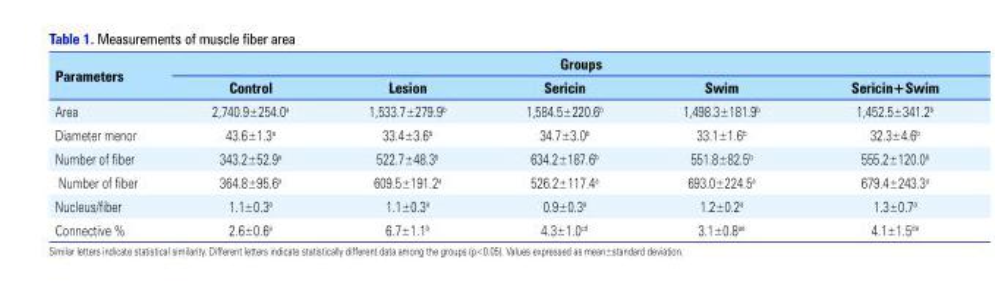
<table><thead><tr><td rowspan="2">Parameters</td><td colspan="5">Groups</td></tr><tr><td>Control</td><td>Lesion</td><td>Sericin</td><td>Swim</td><td>Sericin+Swim</td></tr></thead><tbody><tr><td>Area</td><td>2,740.9±254.0<sup>a</sup></td><td>1,533.7±279.9<sup>b</sup></td><td>1,584.5±220.6<sup>b</sup></td><td>1,498.3±181.9<sup>b</sup></td><td>1,452.5±341.2<sup>b</sup></td></tr><tr><td>Diameter menor</td><td>43.6±1.3<sup>a</sup></td><td>33.4±3.6<sup>b</sup></td><td>34.7±3.0<sup>b</sup></td><td>33.1±1.6<sup>b</sup></td><td>32.3±4.6<sup>b</sup></td></tr><tr><td>Number of fiber</td><td>343.2±52.9<sup>a</sup></td><td>522.7±48.3<sup>b</sup></td><td>634.2±187.6<sup>b</sup></td><td>551.8±82.5<sup>b</sup></td><td>555.2±120.0<sup>b</sup></td></tr><tr><td>Number of fiber</td><td>364.8±95.6<sup>a</sup></td><td>609.5±191.2<sup>a</sup></td><td>526.2±117.4<sup>a</sup></td><td>693.0±224.5<sup>a</sup></td><td>679.4±243.3<sup>a</sup></td></tr><tr><td>Nucleus/fiber</td><td>1.1±0.3<sup>a</sup></td><td>1.1±0.3<sup>a</sup></td><td>0.9±0.3<sup>a</sup></td><td>1.2±0.2<sup>a</sup></td><td>1.3±0.7<sup>a</sup></td></tr><tr><td>Connective %</td><td>2.6±0.6<sup>a</sup></td><td>6.7±1.1<sup>b</sup></td><td>4.3±1.0<sup>cd</sup></td><td>3.1±0.8<sup>ae</sup></td><td>4.1±1.5<sup>de</sup></td></tr></tbody></table>